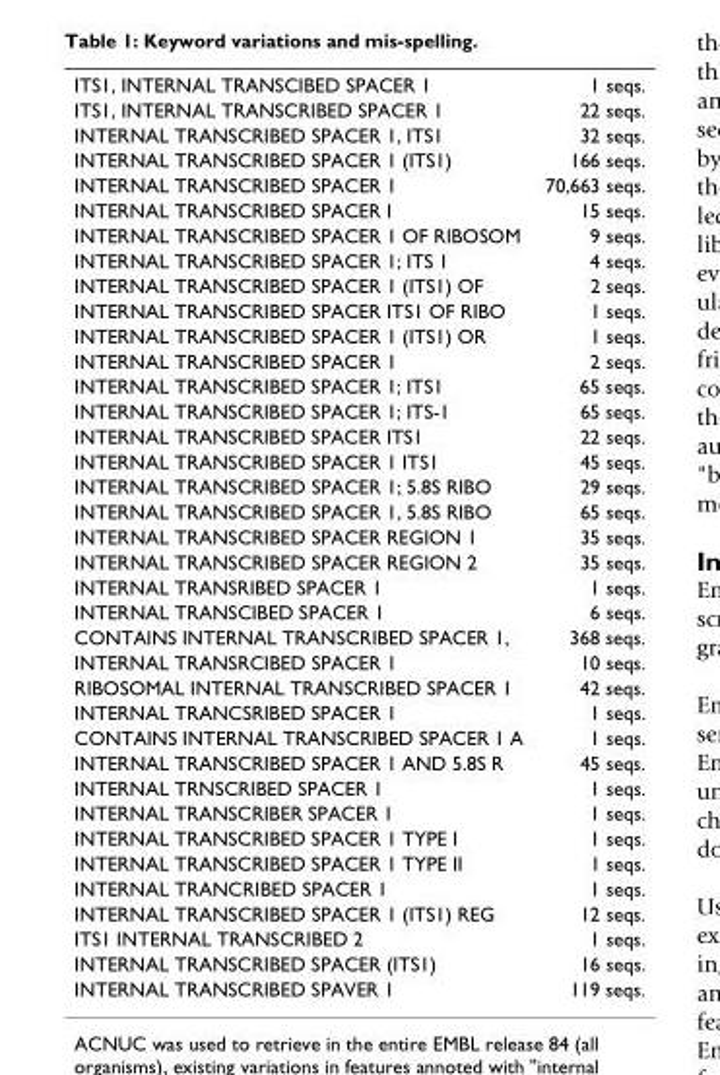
<table><tbody><tr><td>ITS1, INTERNAL TRANSCIBED SPACER 1</td><td>1 seqs.</td></tr><tr><td>ITS1, INTERNAL TRANSCRIBED SPACER 1</td><td>22 seqs.</td></tr><tr><td>INTERNAL TRANSCRIBED SPACER 1, ITS1</td><td>32 seqs.</td></tr><tr><td>INTERNAL TRANSCRIBED SPACER 1 (ITS1)</td><td>166 seqs.</td></tr><tr><td>INTERNAL TRANSCRIBED SPACER 1</td><td>70,663 seqs.</td></tr><tr><td>INTERNAL TRANSCRIBED SPACER I</td><td>15 seqs.</td></tr><tr><td>INTERNAL TRANSCRIBED SPACER 1 OF RIBOSOM</td><td>9 seqs.</td></tr><tr><td>INTERNAL TRANSCRIBED SPACER 1; ITS 1</td><td>4 seqs.</td></tr><tr><td>INTERNAL TRANSCRIBED SPACER 1 (ITS1) OF</td><td>2 seqs.</td></tr><tr><td>INTERNAL TRANSCRIBED SPACER ITS1 OF RIBO</td><td>1 seqs.</td></tr><tr><td>INTERNAL TRANSCRIBED SPACER 1 (ITS1) OR</td><td>1 seqs.</td></tr><tr><td>INTERNAL TRANSCRIBED SPACER 1</td><td>2 seqs.</td></tr><tr><td>INTERNAL TRANSCRIBED SPACER 1; ITS1</td><td>65 seqs.</td></tr><tr><td>INTERNAL TRANSCRIBED SPACER 1; ITS-1</td><td>65 seqs.</td></tr><tr><td>INTERNAL TRANSCRIBED SPACER ITS1</td><td>22 seqs.</td></tr><tr><td>INTERNAL TRANSCRIBED SPACER 1 ITS1</td><td>45 seqs.</td></tr><tr><td>INTERNAL TRANSCRIBED SPACER 1; 5.8S RIBO</td><td>29 seqs.</td></tr><tr><td>INTERNAL TRANSCRIBED SPACER 1, 5.8S RIBO</td><td>65 seqs.</td></tr><tr><td>INTERNAL TRANSCRIBED SPACER REGION 1</td><td>35 seqs.</td></tr><tr><td>INTERNAL TRANSCRIBED SPACER REGION 2</td><td>35 seqs.</td></tr><tr><td>INTERNAL TRANSRIBED SPACER 1</td><td>1 seqs.</td></tr><tr><td>INTERNAL TRANSCIBED SPACER 1</td><td>6 seqs.</td></tr><tr><td>CONTAINS INTERNAL TRANSCRIBED SPACER 1,</td><td>368 seqs.</td></tr><tr><td>INTERNAL TRANSRCIBED SPACER 1</td><td>10 seqs.</td></tr><tr><td>RIBOSOMAL INTERNAL TRANSCRIBED SPACER 1</td><td>42 seqs.</td></tr><tr><td>INTERNAL TRANCSRIBED SPACER 1</td><td>1 seqs.</td></tr><tr><td>CONTAINS INTERNAL TRANSCRIBED SPACER 1 A</td><td>1 seqs.</td></tr><tr><td>INTERNAL TRANSCRIBED SPACER 1 AND 5.8S R</td><td>45 seqs.</td></tr><tr><td>INTERNAL TRNSCRIBED SPACER 1</td><td>1 seqs.</td></tr><tr><td>INTERNAL TRANSCRIBER SPACER 1</td><td>1 seqs.</td></tr><tr><td>INTERNAL TRANSCRIBED SPACER 1 TYPE I</td><td>1 seqs.</td></tr><tr><td>INTERNAL TRANSCRIBED SPACER 1 TYPE II</td><td>1 seqs.</td></tr><tr><td>INTERNAL TRANCRIBED SPACER 1</td><td>1 seqs.</td></tr><tr><td>INTERNAL TRANSCRIBED SPACER 1 (ITS1) REG</td><td>12 seqs.</td></tr><tr><td>ITS1 INTERNAL TRANSCRIBED 2</td><td>1 seqs.</td></tr><tr><td>INTERNAL TRANSCRIBED SPACER (ITS1)</td><td>16 seqs.</td></tr><tr><td>INTERNAL TRANSCRIBED SPAVER 1</td><td>119 seqs.</td></tr></tbody></table>